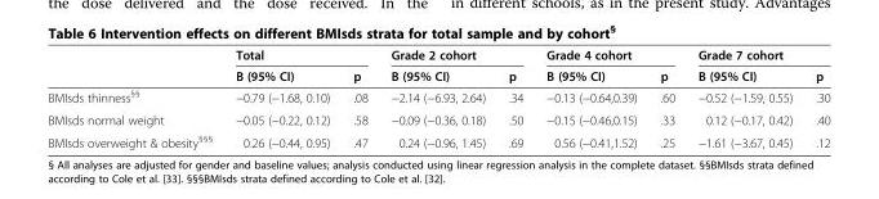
<table><thead><tr><td rowspan="2"></td><td colspan="2">Total</td><td colspan="2">Grade 2 cohort</td><td colspan="2">Grade 4 cohort</td><td colspan="2">Grade 7 cohort</td></tr><tr><td>B (95% CI)</td><td>p</td><td>B (95% CI)</td><td>p</td><td>B (95% CI)</td><td>p</td><td>B (95% CI)</td><td>p</td></tr></thead><tbody><tr><td>BMIsds thinness<sup>§§</sup></td><td>−0.79 (−1.68, 0.10)</td><td>.08</td><td>−2.14 (−6.93, 2.64)</td><td>.34</td><td>−0.13 (−0.64,0.39)</td><td>.60</td><td>−0.52 (−1.59, 0.55)</td><td>.30</td></tr><tr><td>BMIsds normal weight</td><td>−0.05 (−0.22, 0.12)</td><td>.58</td><td>−0.09 (−0.36, 0.18)</td><td>.50</td><td>−0.15 (−0.46,0.15)</td><td>.33</td><td>0.12 (−0.17, 0.42)</td><td>.40</td></tr><tr><td>BMIsds overweight &amp; obesity<sup>§§§</sup></td><td>0.26 (−0.44, 0.95)</td><td>.47</td><td>0.24 (−0.96, 1.45)</td><td>.69</td><td>0.56 (−0.41,1.52)</td><td>.25</td><td>−1.61 (−3.67, 0.45)</td><td>.12</td></tr></tbody></table>